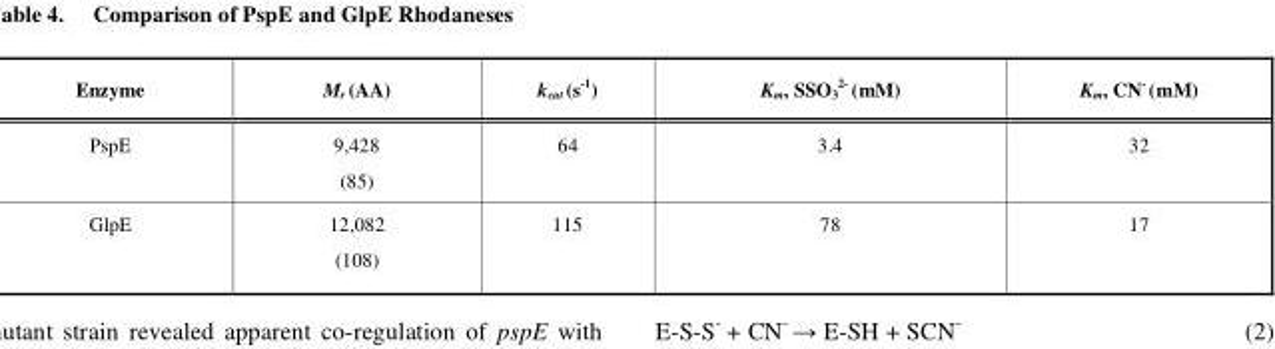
<table><thead><tr><td>Enzyme</td><td>M<sub>r</sub> (AA)</td><td>k<sub>cat</sub> (s<sup>-1</sup>)</td><td>K<sub>m</sub>, SSO<sub>3</sub> <sup>2-</sup> (mM)</td><td>K<sub>m</sub>, CN<sup>-</sup> (mM)</td></tr></thead><tbody><tr><td>PspE</td><td>9,428 (85)</td><td>64</td><td>3.4</td><td>32</td></tr><tr><td>GlpE</td><td>12,082 (108)</td><td>115</td><td>78</td><td>17</td></tr></tbody></table>